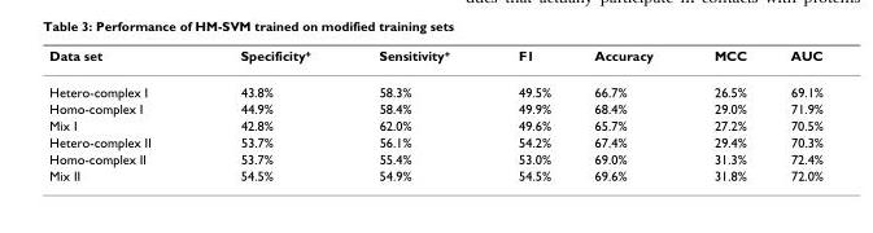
<table><thead><tr><td>Data set</td><td>Specificity<sup>+</sup></td><td>Sensitivity<sup>+</sup></td><td>F1</td><td>Accuracy</td><td>MCC</td><td>AUC</td></tr></thead><tbody><tr><td>Hetero-complex I</td><td>43.8%</td><td>58.3%</td><td>49.5%</td><td>66.7%</td><td>26.5%</td><td>69.1%</td></tr><tr><td>Homo-complex I</td><td>44.9%</td><td>58.4%</td><td>49.9%</td><td>68.4%</td><td>29.0%</td><td>71.9%</td></tr><tr><td>Mix I</td><td>42.8%</td><td>62.0%</td><td>49.6%</td><td>65.7%</td><td>27.2%</td><td>70.5%</td></tr><tr><td>Hetero-complex II</td><td>53.7%</td><td>56.1%</td><td>54.2%</td><td>67.4%</td><td>29.4%</td><td>70.3%</td></tr><tr><td>Homo-complex II</td><td>53.7%</td><td>55.4%</td><td>53.0%</td><td>69.0%</td><td>31.3%</td><td>72.4%</td></tr><tr><td>Mix II</td><td>54.5%</td><td>54.9%</td><td>54.5%</td><td>69.6%</td><td>31.8%</td><td>72.0%</td></tr></tbody></table>